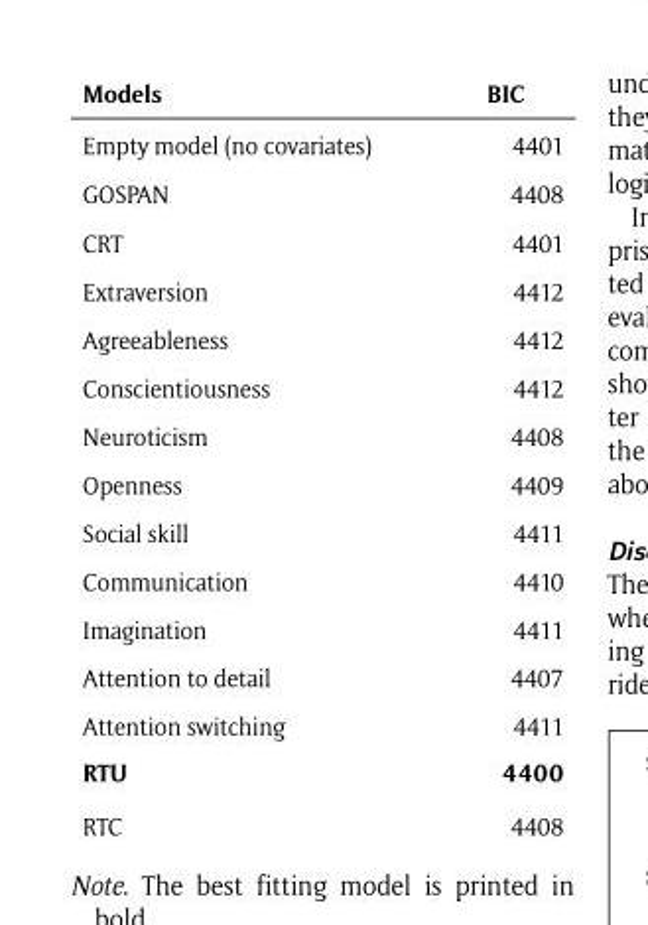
<table><thead><tr><td>Models</td><td>BIC</td></tr></thead><tbody><tr><td>Empty model (no covariates)</td><td>4401</td></tr><tr><td>GOSPAN</td><td>4408</td></tr><tr><td>CRT</td><td>4401</td></tr><tr><td>Extraversion</td><td>4412</td></tr><tr><td>Agreeableness</td><td>4412</td></tr><tr><td>Conscientiousness</td><td>4412</td></tr><tr><td>Neuroticism</td><td>4408</td></tr><tr><td>Openness</td><td>4409</td></tr><tr><td>Social skill</td><td>4411</td></tr><tr><td>Communication</td><td>4410</td></tr><tr><td>Imagination</td><td>4411</td></tr><tr><td>Attention to detail</td><td>4407</td></tr><tr><td>Attention switching</td><td>4411</td></tr><tr><td>RTU</td><td>4400</td></tr><tr><td>RTC</td><td>4408</td></tr></tbody></table>